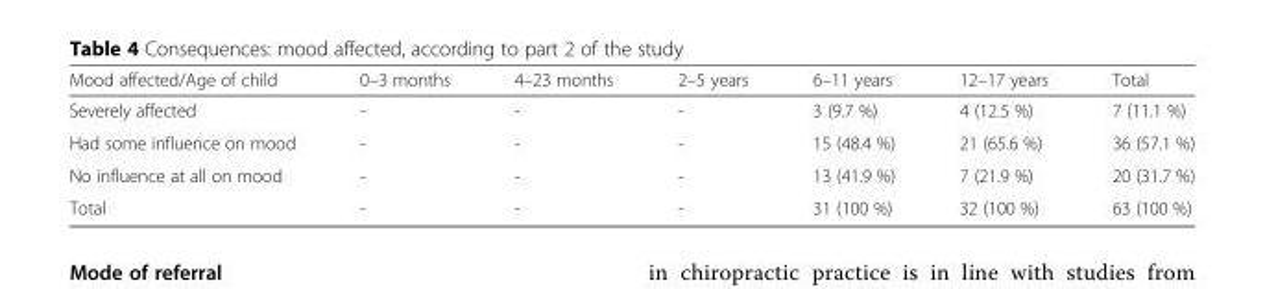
<table><thead><tr><td>Mood affected/Age of child</td><td>0–3 months</td><td>4–23 months</td><td>2–5 years</td><td>6–11 years</td><td>12–17 years</td><td>Total</td></tr></thead><tbody><tr><td>Severely affected</td><td>-</td><td>-</td><td>-</td><td>3 (9.7 %)</td><td>4 (12.5 %)</td><td>7 (11.1 %)</td></tr><tr><td>Had some influence on mood</td><td>-</td><td>-</td><td>-</td><td>15 (48.4 %)</td><td>21 (65.6 %)</td><td>36 (57.1 %)</td></tr><tr><td>No influence at all on mood</td><td>-</td><td>-</td><td>-</td><td>13 (41.9 %)</td><td>7 (21.9 %)</td><td>20 (31.7 %)</td></tr><tr><td>Total</td><td>-</td><td>-</td><td>-</td><td>31 (100 %)</td><td>32 (100 %)</td><td>63 (100 %)</td></tr></tbody></table>